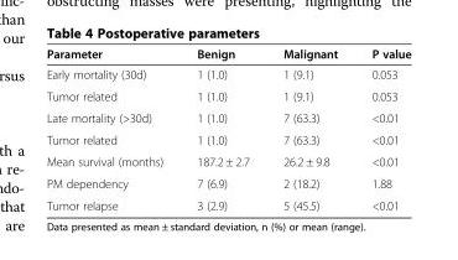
<table><thead><tr><td>Parameter</td><td>Benign</td><td>Malignant</td><td>P value</td></tr></thead><tbody><tr><td>Early mortality (30d)</td><td>1 (1.0)</td><td>1 (9.1)</td><td>0.053</td></tr><tr><td>Tumor related</td><td>1 (1.0)</td><td>1 (9.1)</td><td>0.053</td></tr><tr><td>Late mortality (&gt;30d)</td><td>1 (1.0)</td><td>7 (63.3)</td><td>&lt;0.01</td></tr><tr><td>Tumor related</td><td>1 (1.0)</td><td>7 (63.3)</td><td>&lt;0.01</td></tr><tr><td>Mean survival (months)</td><td>187.2 ± 2.7</td><td>26.2 ± 9.8</td><td>&lt;0.01</td></tr><tr><td>PM dependency</td><td>7 (6.9)</td><td>2 (18.2)</td><td>1.88</td></tr><tr><td>Tumor relapse</td><td>3 (2.9)</td><td>5 (45.5)</td><td>&lt;0.01</td></tr></tbody></table>